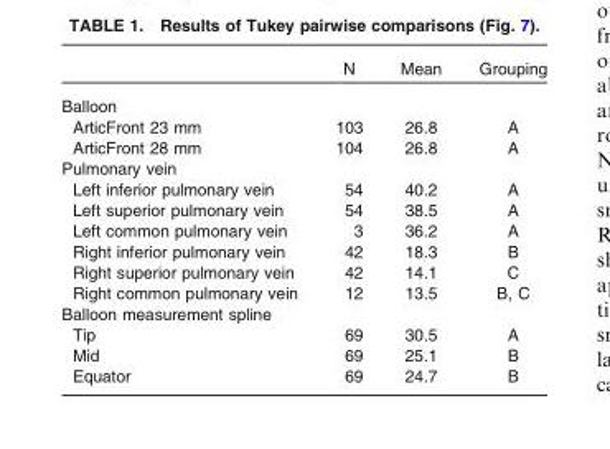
<table><thead><tr><td></td><td>N</td><td>Mean</td><td>Grouping</td></tr></thead><tbody><tr><td colspan="4">Balloon</td></tr><tr><td>ArticFront 23 mm</td><td>103</td><td>26.8</td><td>A</td></tr><tr><td>ArticFront 28 mm</td><td>104</td><td>26.8</td><td>A</td></tr><tr><td colspan="4">Pulmonary vein</td></tr><tr><td>Left inferior pulmonary vein</td><td>54</td><td>40.2</td><td>A</td></tr><tr><td>Left superior pulmonary vein</td><td>54</td><td>38.5</td><td>A</td></tr><tr><td>Left common pulmonary vein</td><td>3</td><td>36.2</td><td>A</td></tr><tr><td>Right inferior pulmonary vein</td><td>42</td><td>18.3</td><td>B</td></tr><tr><td>Right superior pulmonary vein</td><td>42</td><td>14.1</td><td>C</td></tr><tr><td>Right common pulmonary vein</td><td>12</td><td>13.5</td><td>B, C</td></tr><tr><td colspan="4">Balloon measurement spline</td></tr><tr><td>Tip</td><td>69</td><td>30.5</td><td>A</td></tr><tr><td>Mid</td><td>69</td><td>25.1</td><td>B</td></tr><tr><td>Equator</td><td>69</td><td>24.7</td><td>B</td></tr></tbody></table>